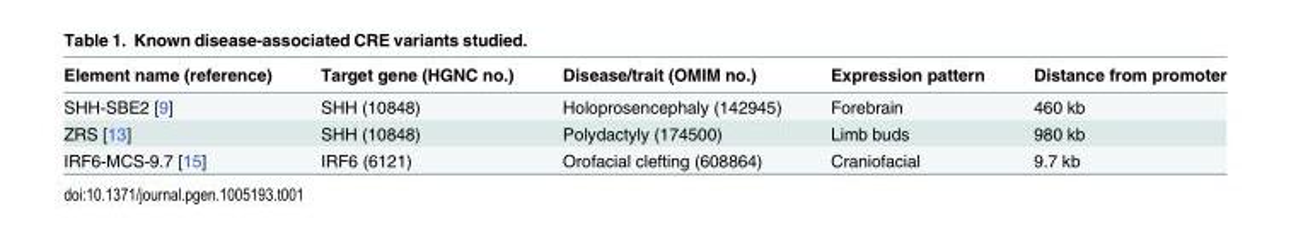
<table><thead><tr><td>Element name (reference)</td><td>Target gene (HGNC no.)</td><td>Disease/trait (OMIM no.)</td><td>Expression pattern</td><td>Distance from promoter</td></tr></thead><tbody><tr><td>SHH-SBE2 [9]</td><td>SHH (10848)</td><td>Holoprosencephaly (142945)</td><td>Forebrain</td><td>460 kb</td></tr><tr><td>ZRS [13]</td><td>SHH (10848)</td><td>Polydactyly (174500)</td><td>Limb buds</td><td>980 kb</td></tr><tr><td>IRF6-MCS-9.7 [15]</td><td>IRF6 (6121)</td><td>Orofacial clefting (608864)</td><td>Craniofacial</td><td>9.7 kb</td></tr></tbody></table>